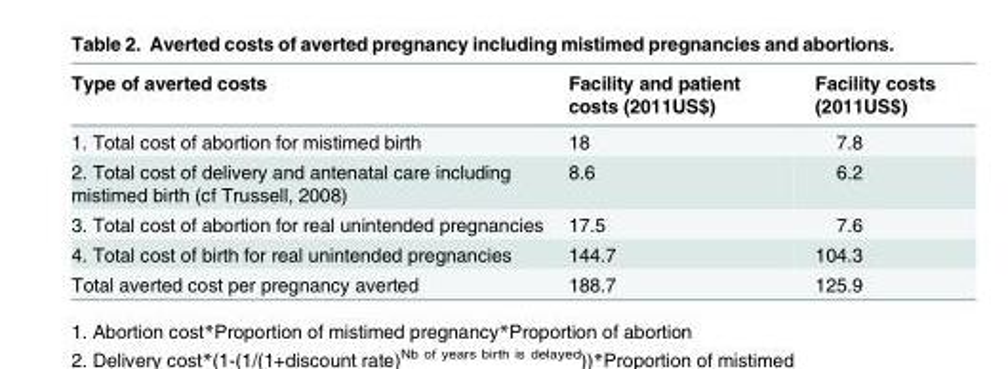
<table><thead><tr><td>Type of averted costs</td><td>Facility and patient costs (2011US$)</td><td>Facility costs (2011US$)</td></tr></thead><tbody><tr><td>1. Total cost of abortion for mistimed birth</td><td>18</td><td>7.8</td></tr><tr><td>2. Total cost of delivery and antenatal care including mistimed birth (cf Trussell, 2008)</td><td>8.6</td><td>6.2</td></tr><tr><td>3. Total cost of abortion for real unintended pregnancies</td><td>17.5</td><td>7.6</td></tr><tr><td>4. Total cost of birth for real unintended pregnancies</td><td>144.7</td><td>104.3</td></tr><tr><td>Total averted cost per pregnancy averted</td><td>188.7</td><td>125.9</td></tr></tbody></table>